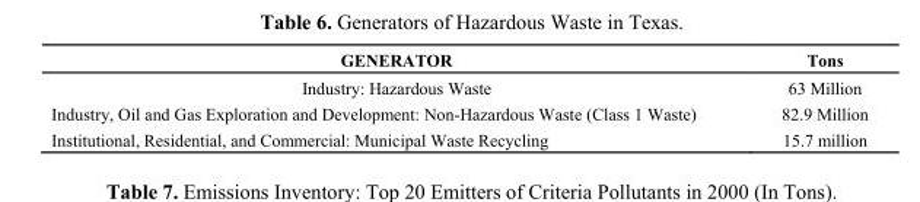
<table><thead><tr><td>GENERATOR</td><td>Tons</td></tr></thead><tbody><tr><td>Industry: Hazardous Waste</td><td>63 Million</td></tr><tr><td>Industry, Oil and Gas Exploration and Development: Non-Hazardous Waste (Class 1 Waste)</td><td>82.9 Million</td></tr><tr><td>Institutional, Residential, and Commercial: Municipal Waste Recycling</td><td>15.7 million</td></tr></tbody></table>